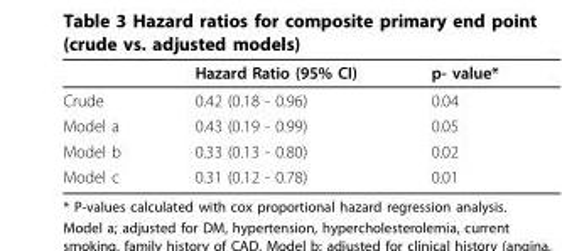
<table><thead><tr><td></td><td>Hazard Ratio (95% CI)</td><td>p- value*</td></tr></thead><tbody><tr><td>Crude</td><td>0.42 (0.18 - 0.96)</td><td>0.04</td></tr><tr><td>Model a</td><td>0.43 (0.19 - 0.99)</td><td>0.05</td></tr><tr><td>Model b</td><td>0.33 (0.13 - 0.80)</td><td>0.02</td></tr><tr><td>Model c</td><td>0.31 (0.12 - 0.78)</td><td>0.01</td></tr></tbody></table>